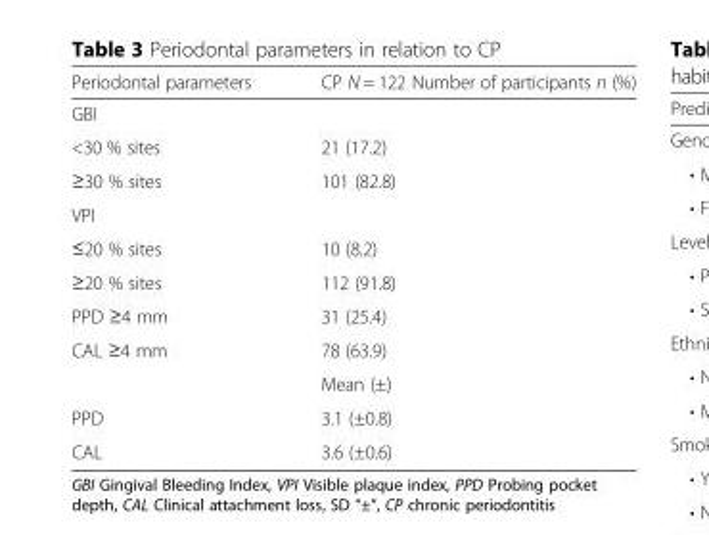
<table><thead><tr><td>Periodontal parameters</td><td>CP N = 122 Number of participants n (%)</td></tr></thead><tbody><tr><td colspan="2">GBI</td></tr><tr><td>&lt;30 % sites</td><td>21 (17.2)</td></tr><tr><td>≥30 % sites</td><td>101 (82.8)</td></tr><tr><td colspan="2">VPI</td></tr><tr><td>≤20 % sites</td><td>10 (8.2)</td></tr><tr><td>≥20 % sites</td><td>112 (91.8)</td></tr><tr><td>PPD ≥4 mm</td><td>31 (25.4)</td></tr><tr><td rowspan="2">CAL ≥4 mm</td><td>78 (63.9)</td></tr><tr><td>Mean (±)</td></tr><tr><td>PPD</td><td>3.1 (±0.8)</td></tr><tr><td>CAL</td><td>3.6 (±0.6)</td></tr></tbody></table>